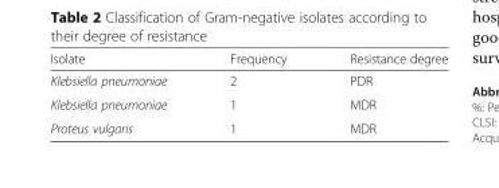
<table><thead><tr><td>Isolate</td><td>Frequency</td><td>Resistance degree</td></tr></thead><tbody><tr><td>Klebsiella pneumoniae</td><td>2</td><td>PDR</td></tr><tr><td>Klebsiella pneumoniae</td><td>1</td><td>MDR</td></tr><tr><td>Proteus vulgaris</td><td>1</td><td>MDR</td></tr></tbody></table>